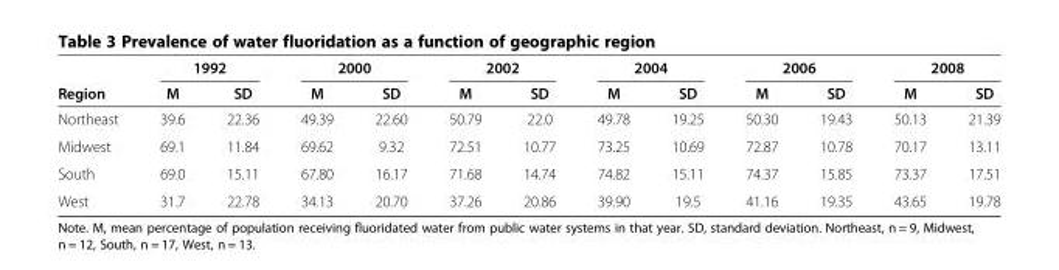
<table><thead><tr><td rowspan="2">Region</td><td colspan="2">1992</td><td colspan="2">2000</td><td colspan="2">2002</td><td colspan="2">2004</td><td colspan="2">2006</td><td colspan="2">2008</td></tr><tr><td>M</td><td>SD</td><td>M</td><td>SD</td><td>M</td><td>SD</td><td>M</td><td>SD</td><td>M</td><td>SD</td><td>M</td><td>SD</td></tr></thead><tbody><tr><td>Northeast</td><td>39.6</td><td>22.36</td><td>49.39</td><td>22.60</td><td>50.79</td><td>22.0</td><td>49.78</td><td>19.25</td><td>50.30</td><td>19.43</td><td>50.13</td><td>21.39</td></tr><tr><td>Midwest</td><td>69.1</td><td>11.84</td><td>69.62</td><td>9.32</td><td>72.51</td><td>10.77</td><td>73.25</td><td>10.69</td><td>72.87</td><td>10.78</td><td>70.17</td><td>13.11</td></tr><tr><td>South</td><td>69.0</td><td>15.11</td><td>67.80</td><td>16.17</td><td>71.68</td><td>14.74</td><td>74.82</td><td>15.11</td><td>74.37</td><td>15.85</td><td>73.37</td><td>17.51</td></tr><tr><td>West</td><td>31.7</td><td>22.78</td><td>34.13</td><td>20.70</td><td>37.26</td><td>20.86</td><td>39.90</td><td>19.5</td><td>41.16</td><td>19.35</td><td>43.65</td><td>19.78</td></tr></tbody></table>